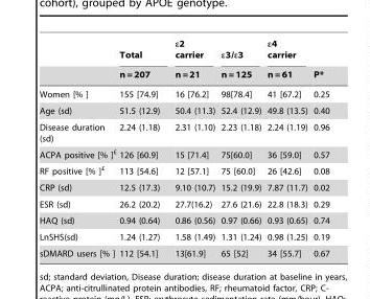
<table><thead><tr><td rowspan="2"></td><td rowspan="2">Total n = 207</td><td rowspan="2">ε2 carrier n = 21</td><td rowspan="2">ε3/ε3 n = 125</td><td rowspan="2">ε4 carrier n = 61</td><td rowspan="2">P*</td></tr><tr></tr></thead><tbody><tr><td>Women [% ]</td><td>155 [74.9]</td><td>16 [76.2]</td><td>98[78.4]</td><td>41 [67.2]</td><td>0.25</td></tr><tr><td>Age (sd)</td><td>51.5 (12.9)</td><td>50.4 (11.3)</td><td>52.4 (12.9)</td><td>49.8 (13.5)</td><td>0.40</td></tr><tr><td>Disease duration (sd)</td><td>2.24 (1.18)</td><td>2.31 (1.10)</td><td>2.23 (1.18)</td><td>2.24 (1.19)</td><td>0.96</td></tr><tr><td>ACPA positive [% ]£</td><td>126 [60.9]</td><td>15 [71.4]</td><td>75[60.0]</td><td>36 [59.0]</td><td>0.57</td></tr><tr><td>RF positive [% ]£</td><td>113 [54.6]</td><td>12 [57.1]</td><td>75 [60.0]</td><td>26 [42.6]</td><td>0.08</td></tr><tr><td>CRP (sd)</td><td>12.5 (17.3)</td><td>9.10 (10.7)</td><td>15.2 (19.9)</td><td>7.87 (11.7)</td><td>0.02</td></tr><tr><td>ESR (sd)</td><td>26.2 (20.2)</td><td>27.7(16.2)</td><td>27.6 (21.6)</td><td>22.8 (18.3)</td><td>0.29</td></tr><tr><td>HAQ (sd)</td><td>0.94 (0.64)</td><td>0.86 (0.56)</td><td>0.97 (0.66)</td><td>0.93 (0.65)</td><td>0.74</td></tr><tr><td>LnSHS(sd)</td><td>1.24 (1.27)</td><td>1.58 (1.49)</td><td>1.31 (1.24)</td><td>0.98 (1.25)</td><td>0.19</td></tr><tr><td>sDMARD users [% ]</td><td>112 [54.1]</td><td>13[61.9]</td><td>65 [52]</td><td>34 [55.7]</td><td>0.67</td></tr></tbody></table>